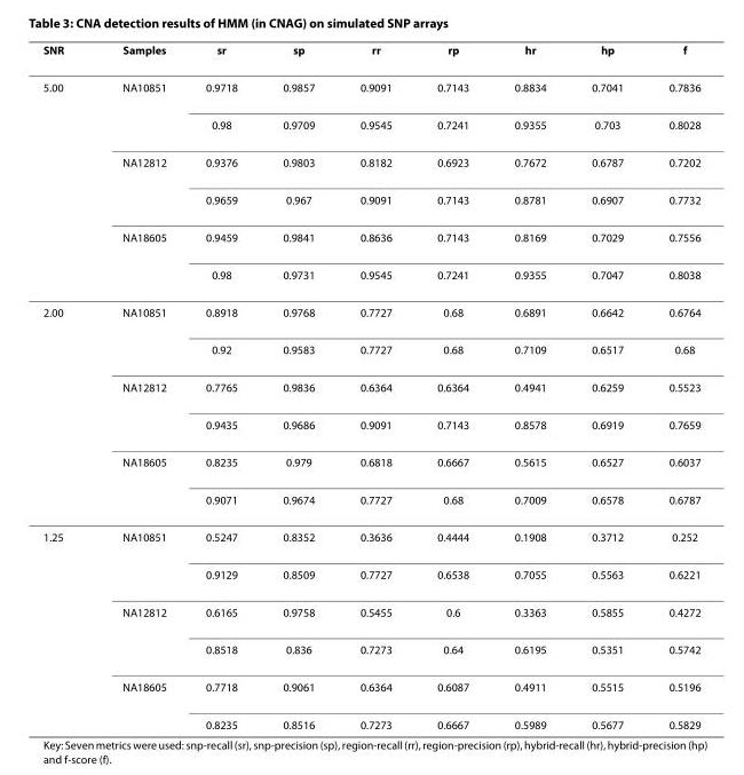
<table><thead><tr><td>SNR</td><td>Samples</td><td>sr</td><td>sp</td><td>rr</td><td>rp</td><td>hr</td><td>hp</td><td>f</td></tr></thead><tbody><tr><td rowspan="6">5.00</td><td>NA10851</td><td>0.9718</td><td>0.9857</td><td>0.9091</td><td>0.7143</td><td>0.8834</td><td>0.7041</td><td>0.7836</td></tr><tr><td></td><td>0.98</td><td>0.9709</td><td>0.9545</td><td>0.7241</td><td>0.9355</td><td>0.703</td><td>0.8028</td></tr><tr><td>NA12812</td><td>0.9376</td><td>0.9803</td><td>0.8182</td><td>0.6923</td><td>0.7672</td><td>0.6787</td><td>0.7202</td></tr><tr><td></td><td>0.9659</td><td>0.967</td><td>0.9091</td><td>0.7143</td><td>0.8781</td><td>0.6907</td><td>0.7732</td></tr><tr><td>NA18605</td><td>0.9459</td><td>0.9841</td><td>0.8636</td><td>0.7143</td><td>0.8169</td><td>0.7029</td><td>0.7556</td></tr><tr><td></td><td>0.98</td><td>0.9731</td><td>0.9545</td><td>0.7241</td><td>0.9355</td><td>0.7047</td><td>0.8038</td></tr><tr><td rowspan="6">2.00</td><td>NA10851</td><td>0.8918</td><td>0.9768</td><td>0.7727</td><td>0.68</td><td>0.6891</td><td>0.6642</td><td>0.6764</td></tr><tr><td></td><td>0.92</td><td>0.9583</td><td>0.7727</td><td>0.68</td><td>0.7109</td><td>0.6517</td><td>0.68</td></tr><tr><td>NA12812</td><td>0.7765</td><td>0.9836</td><td>0.6364</td><td>0.6364</td><td>0.4941</td><td>0.6259</td><td>0.5523</td></tr><tr><td></td><td>0.9435</td><td>0.9686</td><td>0.9091</td><td>0.7143</td><td>0.8578</td><td>0.6919</td><td>0.7659</td></tr><tr><td>NA18605</td><td>0.8235</td><td>0.979</td><td>0.6818</td><td>0.6667</td><td>0.5615</td><td>0.6527</td><td>0.6037</td></tr><tr><td></td><td>0.9071</td><td>0.9674</td><td>0.7727</td><td>0.68</td><td>0.7009</td><td>0.6578</td><td>0.6787</td></tr><tr><td rowspan="6">1.25</td><td>NA10851</td><td>0.5247</td><td>0.8352</td><td>0.3636</td><td>0.4444</td><td>0.1908</td><td>0.3712</td><td>0.252</td></tr><tr><td></td><td>0.9129</td><td>0.8509</td><td>0.7727</td><td>0.6538</td><td>0.7055</td><td>0.5563</td><td>0.6221</td></tr><tr><td>NA12812</td><td>0.6165</td><td>0.9758</td><td>0.5455</td><td>0.6</td><td>0.3363</td><td>0.5855</td><td>0.4272</td></tr><tr><td></td><td>0.8518</td><td>0.836</td><td>0.7273</td><td>0.64</td><td>0.6195</td><td>0.5351</td><td>0.5742</td></tr><tr><td>NA18605</td><td>0.7718</td><td>0.9061</td><td>0.6364</td><td>0.6087</td><td>0.4911</td><td>0.5515</td><td>0.5196</td></tr><tr><td></td><td>0.8235</td><td>0.8516</td><td>0.7273</td><td>0.6667</td><td>0.5989</td><td>0.5677</td><td>0.5829</td></tr></tbody></table>